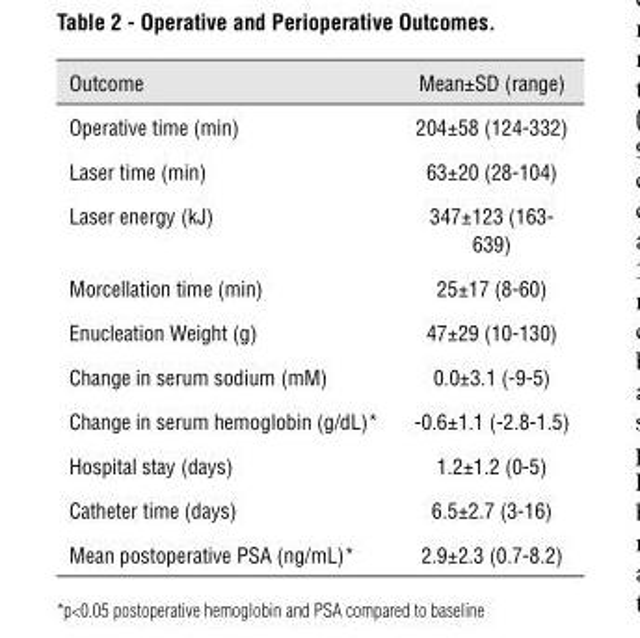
<table><thead><tr><td>Outcome</td><td>Mean±SD (range)</td></tr></thead><tbody><tr><td>Operative time (min)</td><td>204±58 (124-332)</td></tr><tr><td>Laser time (min)</td><td>63±20 (28-104)</td></tr><tr><td>Laser energy (kJ)</td><td>347±123 (163- 639)</td></tr><tr><td>Morcellation time (min)</td><td>25±17 (8-60)</td></tr><tr><td>Enucleation Weight (g)</td><td>47±29 (10-130)</td></tr><tr><td>Change in serum sodium (mM)</td><td>0.0±3.1 (-9-5)</td></tr><tr><td>Change in serum hemoglobin (g/dL)*</td><td>-0.6±1.1 (-2.8-1.5)</td></tr><tr><td>Hospital stay (days)</td><td>1.2±1.2 (0-5)</td></tr><tr><td>Catheter time (days)</td><td>6.5±2.7 (3-16)</td></tr><tr><td>Mean postoperative PSA (ng/mL)*</td><td>2.9±2.3 (0.7-8.2)</td></tr></tbody></table>